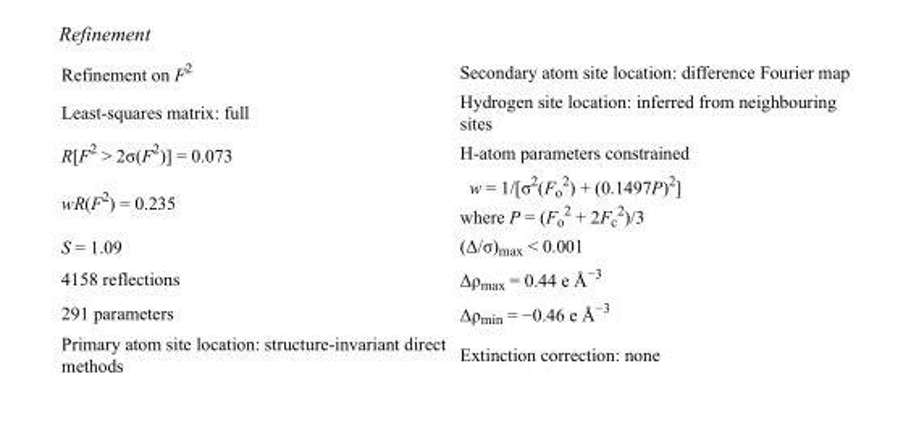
<table><tbody><tr><td>Refinement on F<sup>2</sup></td><td>Secondary atom site location: difference Fourier map</td></tr><tr><td>Least-squares matrix: full</td><td>Hydrogen site location: inferred from neighbouring sites</td></tr><tr><td>R[F<sup>2</sup> &gt; 2σ(F<sup>2</sup>)] = 0.073</td><td>H-atom parameters constrained</td></tr><tr><td>wR(F<sup>2</sup>) = 0.235</td><td>w = 1/[σ<sup>2</sup>(F<sub>o</sub> <sup>2</sup>) + (0.1497P)<sup>2</sup>] where P = (F<sub>o</sub> <sup>2</sup> + 2F<sub>c</sub> <sup>2</sup>)/3</td></tr><tr><td>S = 1.09</td><td>(Δ/σ)<sub>max</sub> &lt; 0.001</td></tr><tr><td>4158 reflections</td><td>Δρ<sub>max</sub> = 0.44 e Å<sup>−3</sup></td></tr><tr><td>291 parameters</td><td>Δρ<sub>min</sub> = −0.46 e Å<sup>−3</sup></td></tr><tr><td>Primary atom site location: structure-invariant direct methods</td><td>Extinction correction: none</td></tr></tbody></table>